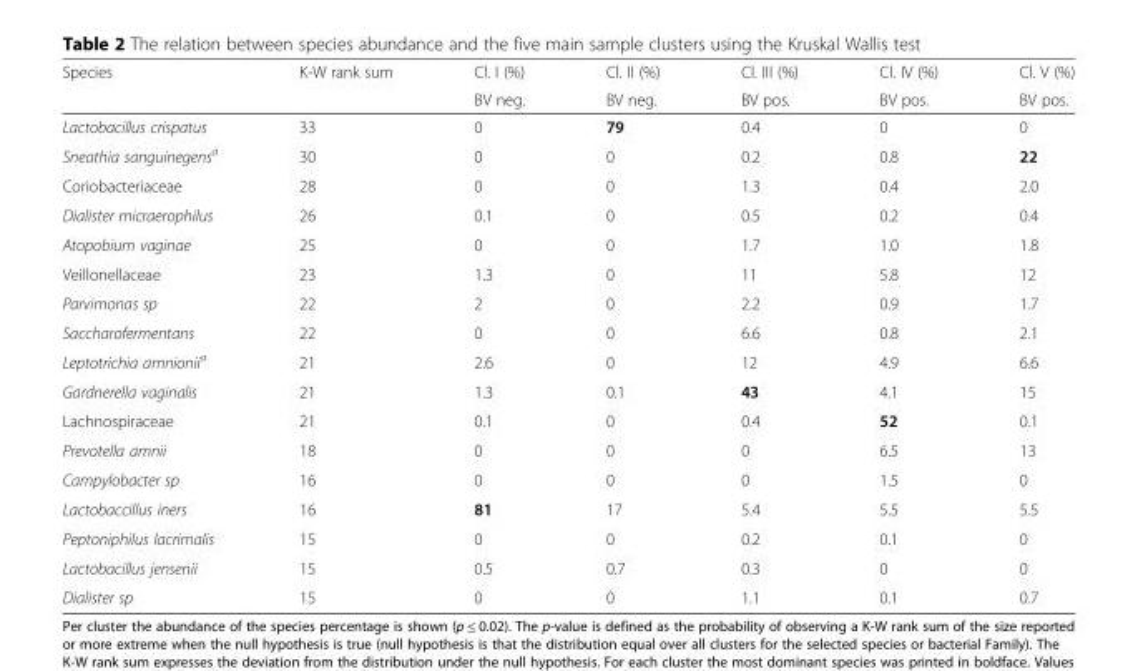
<table><thead><tr><td rowspan="2">Species</td><td rowspan="2">K-W rank sum</td><td rowspan="2">Cl. I (%) BV neg.</td><td rowspan="2">Cl. II (%) BV neg.</td><td rowspan="2">Cl. III (%) BV pos.</td><td rowspan="2">Cl. IV (%) BV pos.</td><td rowspan="2">Cl. V (%) BV pos.</td></tr><tr></tr></thead><tbody><tr><td>Lactobacillus crispatus</td><td>33</td><td>0</td><td>79</td><td>0.4</td><td>0</td><td>0</td></tr><tr><td>Sneathia sanguinegens<sup>a</sup></td><td>30</td><td>0</td><td>0</td><td>0.2</td><td>0.8</td><td>22</td></tr><tr><td>Coriobacteriaceae</td><td>28</td><td>0</td><td>0</td><td>1.3</td><td>0.4</td><td>2.0</td></tr><tr><td>Dialister micraerophilus</td><td>26</td><td>0.1</td><td>0</td><td>0.5</td><td>0.2</td><td>0.4</td></tr><tr><td>Atopobium vaginae</td><td>25</td><td>0</td><td>0</td><td>1.7</td><td>1.0</td><td>1.8</td></tr><tr><td>Veillonellaceae</td><td>23</td><td>1.3</td><td>0</td><td>11</td><td>5.8</td><td>12</td></tr><tr><td>Parvimonas sp</td><td>22</td><td>2</td><td>0</td><td>2.2</td><td>0.9</td><td>1.7</td></tr><tr><td>Saccharofermentans</td><td>22</td><td>0</td><td>0</td><td>6.6</td><td>0.8</td><td>2.1</td></tr><tr><td>Leptotrichia amnionii<sup>a</sup></td><td>21</td><td>2.6</td><td>0</td><td>12</td><td>4.9</td><td>6.6</td></tr><tr><td>Gardnerella vaginalis</td><td>21</td><td>1.3</td><td>0.1</td><td>43</td><td>4.1</td><td>15</td></tr><tr><td>Lachnospiraceae</td><td>21</td><td>0.1</td><td>0</td><td>0.4</td><td>52</td><td>0.1</td></tr><tr><td>Prevotella amnii</td><td>18</td><td>0</td><td>0</td><td>0</td><td>6.5</td><td>13</td></tr><tr><td>Campylobacter sp</td><td>16</td><td>0</td><td>0</td><td>0</td><td>1.5</td><td>0</td></tr><tr><td>Lactobaccillus iners</td><td>16</td><td>81</td><td>17</td><td>5.4</td><td>5.5</td><td>5.5</td></tr><tr><td>Peptoniphilus lacrimalis</td><td>15</td><td>0</td><td>0</td><td>0.2</td><td>0.1</td><td>0</td></tr><tr><td>Lactobacillus jensenii</td><td>15</td><td>0.5</td><td>0.7</td><td>0.3</td><td>0</td><td>0</td></tr><tr><td>Dialister sp</td><td>15</td><td>0</td><td>0</td><td>1.1</td><td>0.1</td><td>0.7</td></tr></tbody></table>